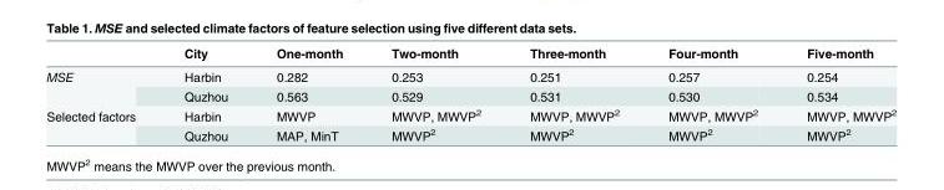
<table><thead><tr><td></td><td>City</td><td>One-month</td><td>Two-month</td><td>Three-month</td><td>Four-month</td><td>Five-month</td></tr></thead><tbody><tr><td rowspan="2">MSE</td><td>Harbin</td><td>0.282</td><td>0.253</td><td>0.251</td><td>0.257</td><td>0.254</td></tr><tr><td>Quzhou</td><td>0.563</td><td>0.529</td><td>0.531</td><td>0.530</td><td>0.534</td></tr><tr><td rowspan="2">Selected factors</td><td>Harbin</td><td>MWVP</td><td>MWVP, MWVP<sup>2</sup></td><td>MWVP, MWVP<sup>2</sup></td><td>MWVP, MWVP<sup>2</sup></td><td>MWVP, MWVP<sup>2</sup></td></tr><tr><td>Quzhou</td><td>MAP, MinT</td><td>MWVP<sup>2</sup></td><td>MWVP<sup>2</sup></td><td>MWVP<sup>2</sup></td><td>MWVP<sup>2</sup></td></tr></tbody></table>